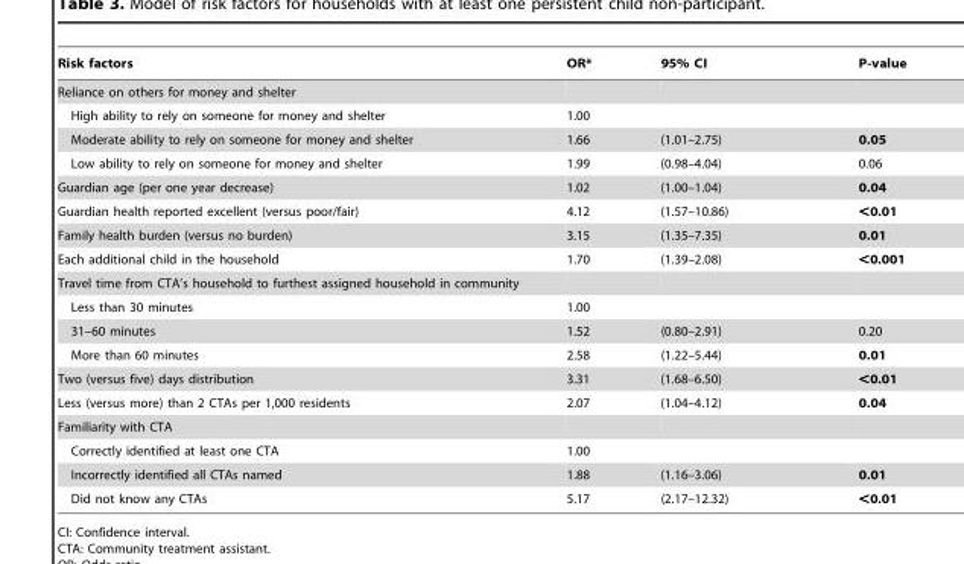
<table><thead><tr><td>Risk factors</td><td>OR*</td><td>95% CI</td><td>P-value</td></tr></thead><tbody><tr><td colspan="4">Reliance on others for money and shelter</td></tr><tr><td>High ability to rely on someone for money and shelter</td><td>1.00</td><td></td><td></td></tr><tr><td>Moderate ability to rely on someone for money and shelter</td><td>1.66</td><td>(1.01–2.75)</td><td>0.05</td></tr><tr><td>Low ability to rely on someone for money and shelter</td><td>1.99</td><td>(0.98–4.04)</td><td>0.06</td></tr><tr><td>Guardian age (per one year decrease)</td><td>1.02</td><td>(1.00–1.04)</td><td>0.04</td></tr><tr><td>Guardian health reported excellent (versus poor/fair)</td><td>4.12</td><td>(1.57–10.86)</td><td>&lt;0.01</td></tr><tr><td>Family health burden (versus no burden)</td><td>3.15</td><td>(1.35–7.35)</td><td>0.01</td></tr><tr><td>Each additional child in the household</td><td>1.70</td><td>(1.39–2.08)</td><td>&lt;0.001</td></tr><tr><td colspan="4">Travel time from CTA’s household to furthest assigned household in community</td></tr><tr><td>Less than 30 minutes</td><td>1.00</td><td></td><td></td></tr><tr><td>31–60 minutes</td><td>1.52</td><td>(0.80–2.91)</td><td>0.20</td></tr><tr><td>More than 60 minutes</td><td>2.58</td><td>(1.22–5.44)</td><td>0.01</td></tr><tr><td>Two (versus five) days distribution</td><td>3.31</td><td>(1.68–6.50)</td><td>&lt;0.01</td></tr><tr><td>Less (versus more) than 2 CTAs per 1,000 residents</td><td>2.07</td><td>(1.04–4.12)</td><td>0.04</td></tr><tr><td colspan="4">Familiarity with CTA</td></tr><tr><td>Correctly identified at least one CTA</td><td>1.00</td><td></td><td></td></tr><tr><td>Incorrectly identified all CTAs named</td><td>1.88</td><td>(1.16–3.06)</td><td>0.01</td></tr><tr><td>Did not know any CTAs</td><td>5.17</td><td>(2.17–12.32)</td><td>&lt;0.01</td></tr></tbody></table>